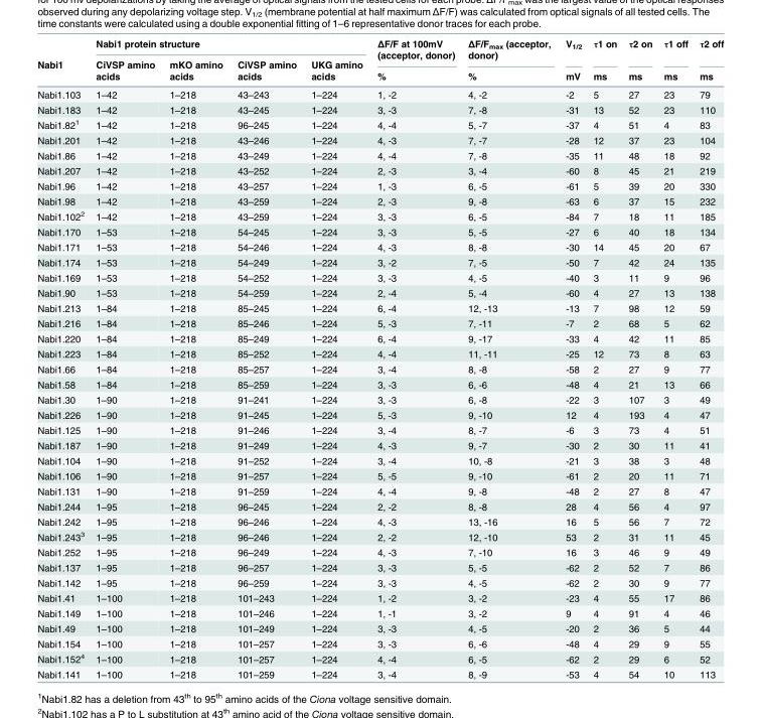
<table><thead><tr><td rowspan="3">Nabi1</td><td colspan="4">Nabi1 protein structure</td><td rowspan="3">ΔF/F at 100mV (acceptor, donor) %</td><td rowspan="3">ΔF/F<sub>max</sub> (acceptor, donor) %</td><td rowspan="3">V<sub>1/2</sub> mV</td><td rowspan="3">τ1 on ms</td><td rowspan="3">τ2 on ms</td><td rowspan="3">τ1 off ms</td><td rowspan="3">τ2 off ms</td></tr><tr><td rowspan="2">CiVSP amino acids</td><td rowspan="2">mKO amino acids</td><td rowspan="2">CiVSP amino acids</td><td rowspan="2">UKG amino acids</td></tr><tr></tr></thead><tbody><tr><td>Nabi1.103</td><td>1–42</td><td>1–218</td><td>43–243</td><td>1–224</td><td>1, -2</td><td>4, -2</td><td>-2</td><td>5</td><td>27</td><td>23</td><td>79</td></tr><tr><td>Nabi1.183</td><td>1–42</td><td>1–218</td><td>43–245</td><td>1–224</td><td>3, -3</td><td>7, -8</td><td>-31</td><td>13</td><td>52</td><td>23</td><td>110</td></tr><tr><td>Nabi1.82<sup>1</sup></td><td>1–42</td><td>1–218</td><td>96–245</td><td>1–224</td><td>4, -4</td><td>5, -7</td><td>-37</td><td>4</td><td>51</td><td>4</td><td>83</td></tr><tr><td>Nabi1.201</td><td>1–42</td><td>1–218</td><td>43–246</td><td>1–224</td><td>4, -3</td><td>7, -7</td><td>-28</td><td>12</td><td>37</td><td>23</td><td>104</td></tr><tr><td>Nabi1.86</td><td>1–42</td><td>1–218</td><td>43–249</td><td>1–224</td><td>4, -4</td><td>7, -8</td><td>-35</td><td>11</td><td>48</td><td>18</td><td>92</td></tr><tr><td>Nabi1.207</td><td>1–42</td><td>1–218</td><td>43–252</td><td>1–224</td><td>2, -3</td><td>3, -4</td><td>-60</td><td>8</td><td>45</td><td>21</td><td>219</td></tr><tr><td>Nabi1.96</td><td>1–42</td><td>1–218</td><td>43–257</td><td>1–224</td><td>1, -3</td><td>6, -5</td><td>-61</td><td>5</td><td>39</td><td>20</td><td>330</td></tr><tr><td>Nabi1.98</td><td>1–42</td><td>1–218</td><td>43–259</td><td>1–224</td><td>2, -3</td><td>9, -8</td><td>-63</td><td>6</td><td>37</td><td>15</td><td>232</td></tr><tr><td>Nabi1.102<sup>2</sup></td><td>1–42</td><td>1–218</td><td>43–259</td><td>1–224</td><td>3, -3</td><td>6, -5</td><td>-84</td><td>7</td><td>18</td><td>11</td><td>185</td></tr><tr><td>Nabi1.170</td><td>1–53</td><td>1–218</td><td>54–245</td><td>1–224</td><td>3, -3</td><td>5, -5</td><td>-27</td><td>6</td><td>40</td><td>18</td><td>134</td></tr><tr><td>Nabi1.171</td><td>1–53</td><td>1–218</td><td>54–246</td><td>1–224</td><td>4, -3</td><td>8, -8</td><td>-30</td><td>14</td><td>45</td><td>20</td><td>67</td></tr><tr><td>Nabi1.174</td><td>1–53</td><td>1–218</td><td>54–249</td><td>1–224</td><td>3, -2</td><td>7, -5</td><td>-50</td><td>7</td><td>42</td><td>24</td><td>135</td></tr><tr><td>Nabi1.169</td><td>1–53</td><td>1–218</td><td>54–252</td><td>1–224</td><td>3, -3</td><td>4, -5</td><td>-40</td><td>3</td><td>11</td><td>9</td><td>96</td></tr><tr><td>Nabi1.90</td><td>1–53</td><td>1–218</td><td>54–259</td><td>1–224</td><td>2, -4</td><td>5, -4</td><td>-60</td><td>4</td><td>27</td><td>13</td><td>138</td></tr><tr><td>Nabi1.213</td><td>1–84</td><td>1–218</td><td>85–245</td><td>1–224</td><td>6, -4</td><td>12, -13</td><td>-13</td><td>7</td><td>98</td><td>12</td><td>59</td></tr><tr><td>Nabi1.216</td><td>1–84</td><td>1–218</td><td>85–246</td><td>1–224</td><td>5, -3</td><td>7, -11</td><td>-7</td><td>2</td><td>68</td><td>5</td><td>62</td></tr><tr><td>Nabi1.220</td><td>1–84</td><td>1–218</td><td>85–249</td><td>1–224</td><td>6, -4</td><td>9, -17</td><td>-33</td><td>4</td><td>42</td><td>11</td><td>85</td></tr><tr><td>Nabi1.223</td><td>1–84</td><td>1–218</td><td>85–252</td><td>1–224</td><td>4, -4</td><td>11, -11</td><td>-25</td><td>12</td><td>73</td><td>8</td><td>63</td></tr><tr><td>Nabi1.66</td><td>1–84</td><td>1–218</td><td>85–257</td><td>1–224</td><td>3, -4</td><td>8, -8</td><td>-58</td><td>2</td><td>27</td><td>9</td><td>77</td></tr><tr><td>Nabi1.58</td><td>1–84</td><td>1–218</td><td>85–259</td><td>1–224</td><td>3, -3</td><td>6, -6</td><td>-48</td><td>4</td><td>21</td><td>13</td><td>66</td></tr><tr><td>Nabi1.30</td><td>1–90</td><td>1–218</td><td>91–241</td><td>1–224</td><td>3, -3</td><td>6, -8</td><td>-22</td><td>3</td><td>107</td><td>3</td><td>49</td></tr><tr><td>Nabi1.226</td><td>1–90</td><td>1–218</td><td>91–245</td><td>1–224</td><td>5, -3</td><td>9, -10</td><td>12</td><td>4</td><td>193</td><td>4</td><td>47</td></tr><tr><td>Nabi1.125</td><td>1–90</td><td>1–218</td><td>91–246</td><td>1–224</td><td>3, -4</td><td>8, -7</td><td>-6</td><td>3</td><td>73</td><td>4</td><td>51</td></tr><tr><td>Nabi1.187</td><td>1–90</td><td>1–218</td><td>91–249</td><td>1–224</td><td>4, -3</td><td>9, -7</td><td>-30</td><td>2</td><td>30</td><td>11</td><td>41</td></tr><tr><td>Nabi1.104</td><td>1–90</td><td>1–218</td><td>91–252</td><td>1–224</td><td>3, -4</td><td>10, -8</td><td>-21</td><td>3</td><td>38</td><td>3</td><td>48</td></tr><tr><td>Nabi1.106</td><td>1–90</td><td>1–218</td><td>91–257</td><td>1–224</td><td>5, -5</td><td>9, -10</td><td>-61</td><td>2</td><td>20</td><td>11</td><td>71</td></tr><tr><td>Nabi1.131</td><td>1–90</td><td>1–218</td><td>91–259</td><td>1–224</td><td>4, -4</td><td>9, -8</td><td>-48</td><td>2</td><td>27</td><td>8</td><td>47</td></tr><tr><td>Nabi1.244</td><td>1–95</td><td>1–218</td><td>96–245</td><td>1–224</td><td>2, -2</td><td>8, -8</td><td>28</td><td>4</td><td>56</td><td>4</td><td>97</td></tr><tr><td>Nabi1.242</td><td>1–95</td><td>1–218</td><td>96–246</td><td>1–224</td><td>4, -3</td><td>13, -16</td><td>16</td><td>5</td><td>56</td><td>7</td><td>72</td></tr><tr><td>Nabi1.243<sup>3</sup></td><td>1–95</td><td>1–218</td><td>96–246</td><td>1–224</td><td>2, -2</td><td>12, -10</td><td>53</td><td>2</td><td>31</td><td>11</td><td>45</td></tr><tr><td>Nabi1.252</td><td>1–95</td><td>1–218</td><td>96–249</td><td>1–224</td><td>4, -3</td><td>7, -10</td><td>16</td><td>3</td><td>46</td><td>9</td><td>49</td></tr><tr><td>Nabi1.137</td><td>1–95</td><td>1–218</td><td>96–257</td><td>1–224</td><td>3, -3</td><td>5, -5</td><td>-62</td><td>2</td><td>52</td><td>7</td><td>86</td></tr><tr><td>Nabi1.142</td><td>1–95</td><td>1–218</td><td>96–259</td><td>1–224</td><td>3, -3</td><td>4, -5</td><td>-62</td><td>2</td><td>30</td><td>9</td><td>77</td></tr><tr><td>Nabi1.41</td><td>1–100</td><td>1–218</td><td>101–243</td><td>1–224</td><td>1, -2</td><td>3, -2</td><td>-23</td><td>4</td><td>55</td><td>17</td><td>86</td></tr><tr><td>Nabi1.149</td><td>1–100</td><td>1–218</td><td>101–246</td><td>1–224</td><td>1, -1</td><td>3, -2</td><td>9</td><td>4</td><td>91</td><td>4</td><td>46</td></tr><tr><td>Nabi1.49</td><td>1–100</td><td>1–218</td><td>101–249</td><td>1–224</td><td>3, -3</td><td>4, -5</td><td>-20</td><td>2</td><td>36</td><td>5</td><td>44</td></tr><tr><td>Nabi1.154</td><td>1–100</td><td>1–218</td><td>101–257</td><td>1–224</td><td>3, -3</td><td>6, -6</td><td>-48</td><td>4</td><td>29</td><td>9</td><td>55</td></tr><tr><td>Nabi1.152<sup>4</sup></td><td>1–100</td><td>1–218</td><td>101–257</td><td>1–224</td><td>4, -4</td><td>6, -5</td><td>-62</td><td>2</td><td>29</td><td>6</td><td>52</td></tr><tr><td>Nabi1.141</td><td>1–100</td><td>1–218</td><td>101–259</td><td>1–224</td><td>3, -4</td><td>8, -9</td><td>-53</td><td>4</td><td>54</td><td>10</td><td>113</td></tr></tbody></table>